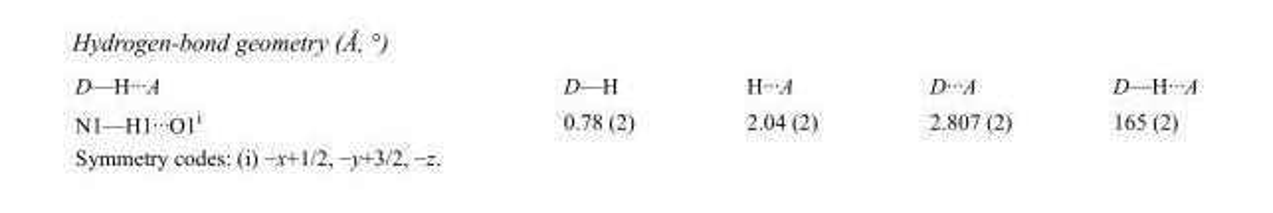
<table><tbody><tr><td>D—H···A</td><td>D—H</td><td>H···A</td><td>D···A</td><td>D—H···A</td></tr><tr><td>N1—H1···O1<sup>i</sup></td><td>0.78 (2)</td><td>2.04 (2)</td><td>2.807 (2)</td><td>165 (2)</td></tr></tbody></table>